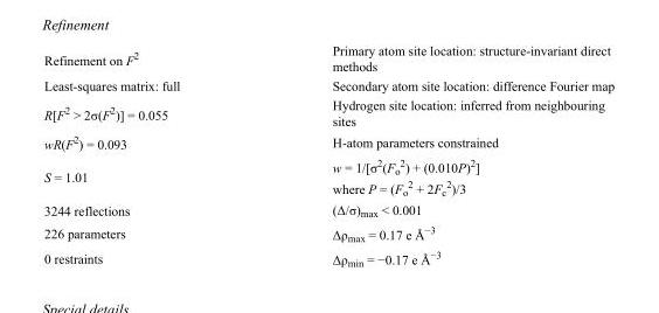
<table><tbody><tr><td>Refinement on F<sup>2</sup></td><td>Primary atom site location: structure-invariant direct methods</td></tr><tr><td>Least-squares matrix: full</td><td>Secondary atom site location: difference Fourier map</td></tr><tr><td>R[F<sup>2</sup> &gt; 2σ(F<sup>2</sup>)] = 0.055</td><td>Hydrogen site location: inferred from neighbouring sites</td></tr><tr><td>wR(F<sup>2</sup>) = 0.093</td><td>H-atom parameters constrained</td></tr><tr><td>S = 1.01</td><td>w = 1/[σ<sup>2</sup>(F<sub>o</sub> <sup>2</sup>) + (0.010P)<sup>2</sup>] where P = (F<sub>o</sub> <sup>2</sup> + 2F<sub>c</sub> <sup>2</sup>)/3</td></tr><tr><td>3244 reflections</td><td>(Δ/σ)<sub>max</sub> &lt; 0.001</td></tr><tr><td>226 parameters</td><td>Δρ<sub>max</sub> = 0.17 e Å<sup>−3</sup></td></tr><tr><td>0 restraints</td><td>Δρ<sub>min</sub> = −0.17 e Å<sup>−3</sup></td></tr></tbody></table>